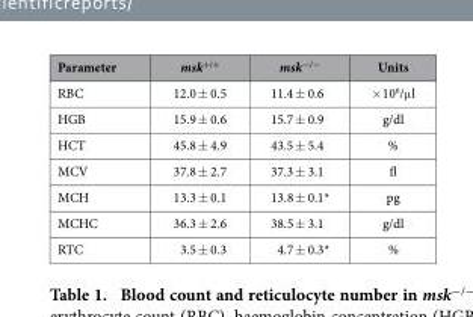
<table><thead><tr><td>Parameter</td><td>msk<sup>+/+</sup></td><td>msk<sup>−/−</sup></td><td>Units</td></tr></thead><tbody><tr><td>RBC</td><td>12.0 ± 0.5</td><td>11.4 ± 0.6</td><td>× 10<sup>6</sup>/μ l</td></tr><tr><td>HGB</td><td>15.9 ± 0.6</td><td>15.7 ± 0.9</td><td>g/dl</td></tr><tr><td>HCT</td><td>45.8 ± 4.9</td><td>43.5 ± 5.4</td><td>%</td></tr><tr><td>MCV</td><td>37.8 ± 2.7</td><td>37.3 ± 3.1</td><td>fl</td></tr><tr><td>MCH</td><td>13.3 ± 0.1</td><td>13.8 ± 0.1*</td><td>pg</td></tr><tr><td>MCHC</td><td>36.3 ± 2.6</td><td>38.5 ± 3.1</td><td>g/dl</td></tr><tr><td>RTC</td><td>3.5 ± 0.3</td><td>4.7 ± 0.3*</td><td>%</td></tr></tbody></table>